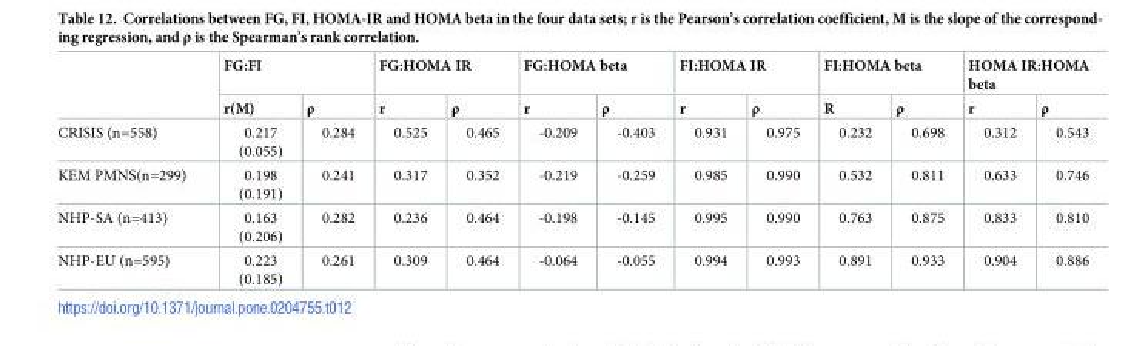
<table><thead><tr><td rowspan="2"></td><td colspan="2">FG:FI</td><td colspan="2">FG:HOMA IR</td><td colspan="2">FG:HOMA beta</td><td colspan="2">FI:HOMA IR</td><td colspan="2">FI:HOMA beta</td><td colspan="2">HOMA IR:HOMA beta</td></tr><tr><td>r(M)</td><td>ρ</td><td>r</td><td>ρ</td><td>r</td><td>ρ</td><td>r</td><td>ρ</td><td>R</td><td>ρ</td><td>r</td><td>ρ</td></tr></thead><tbody><tr><td>CRISIS (n=558)</td><td>0.217 (0.055)</td><td>0.284</td><td>0.525</td><td>0.465</td><td>-0.209</td><td>-0.403</td><td>0.931</td><td>0.975</td><td>0.232</td><td>0.698</td><td>0.312</td><td>0.543</td></tr><tr><td>KEM PMNS(n=299)</td><td>0.198 (0.191)</td><td>0.241</td><td>0.317</td><td>0.352</td><td>-0.219</td><td>-0.259</td><td>0.985</td><td>0.990</td><td>0.532</td><td>0.811</td><td>0.633</td><td>0.746</td></tr><tr><td>NHP-SA (n=413)</td><td>0.163 (0.206)</td><td>0.282</td><td>0.236</td><td>0.464</td><td>-0.198</td><td>-0.145</td><td>0.995</td><td>0.990</td><td>0.763</td><td>0.875</td><td>0.833</td><td>0.810</td></tr><tr><td>NHP-EU (n=595)</td><td>0.223 (0.185)</td><td>0.261</td><td>0.309</td><td>0.464</td><td>-0.064</td><td>-0.055</td><td>0.994</td><td>0.993</td><td>0.891</td><td>0.933</td><td>0.904</td><td>0.886</td></tr></tbody></table>